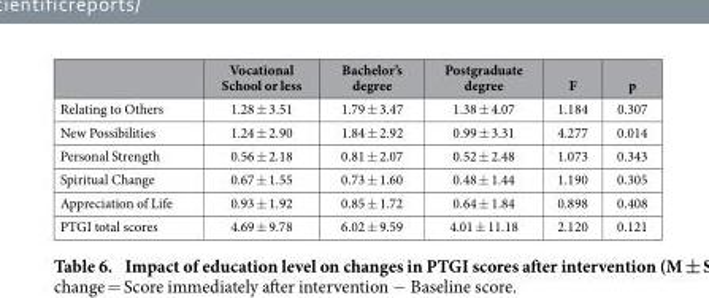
<table><thead><tr><td></td><td>Vocational School or less</td><td>Bachelor’s degree</td><td>Postgraduate degree</td><td>F</td><td>p</td></tr></thead><tbody><tr><td>Relating to Others</td><td>1.28 ± 3.51</td><td>1.79 ± 3.47</td><td>1.38 ± 4.07</td><td>1.184</td><td>0.307</td></tr><tr><td>New Possibilities</td><td>1.24 ± 2.90</td><td>1.84 ± 2.92</td><td>0.99 ± 3.31</td><td>4.277</td><td>0.014</td></tr><tr><td>Personal Strength</td><td>0.56 ± 2.18</td><td>0.81 ± 2.07</td><td>0.52 ± 2.48</td><td>1.073</td><td>0.343</td></tr><tr><td>Spiritual Change</td><td>0.67 ± 1.55</td><td>0.73 ± 1.60</td><td>0.48 ± 1.44</td><td>1.190</td><td>0.305</td></tr><tr><td>Appreciation of Life</td><td>0.93 ± 1.92</td><td>0.85 ± 1.72</td><td>0.64 ± 1.84</td><td>0.898</td><td>0.408</td></tr><tr><td>PTGI total scores</td><td>4.69 ± 9.78</td><td>6.02 ± 9.59</td><td>4.01 ± 11.18</td><td>2.120</td><td>0.121</td></tr></tbody></table>